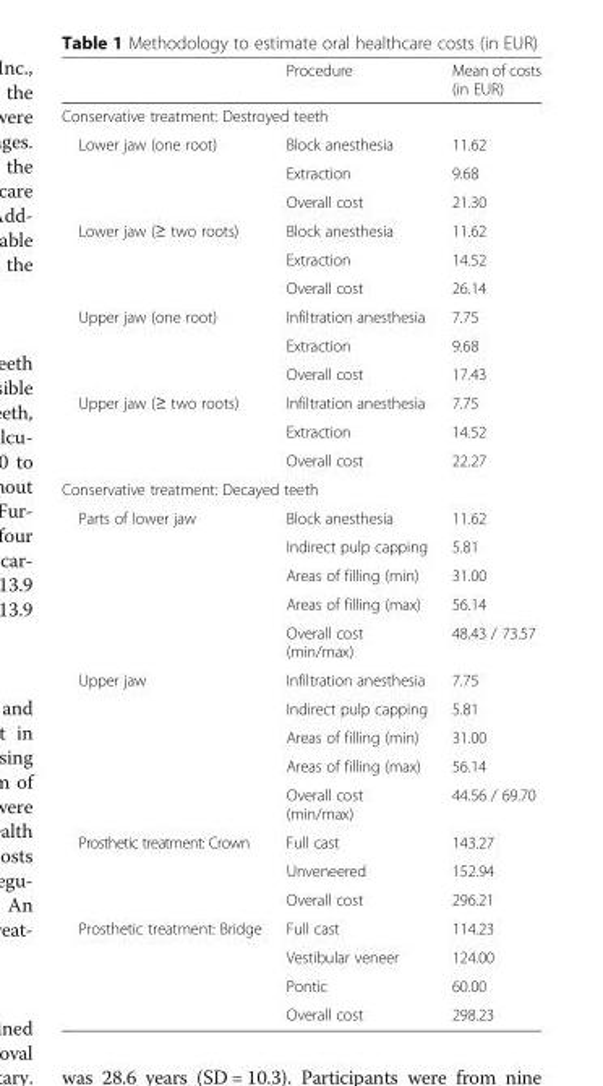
<table><thead><tr><td></td><td>Procedure</td><td>Mean of costs (in EUR)</td></tr></thead><tbody><tr><td colspan="3">Conservative treatment: Destroyed teeth</td></tr><tr><td rowspan="3">Lower jaw (one root)</td><td>Block anesthesia</td><td>11.62</td></tr><tr><td>Extraction</td><td>9.68</td></tr><tr><td>Overall cost</td><td>21.30</td></tr><tr><td rowspan="3">Lower jaw (≥ two roots)</td><td>Block anesthesia</td><td>11.62</td></tr><tr><td>Extraction</td><td>14.52</td></tr><tr><td>Overall cost</td><td>26.14</td></tr><tr><td rowspan="3">Upper jaw (one root)</td><td>Infiltration anesthesia</td><td>7.75</td></tr><tr><td>Extraction</td><td>9.68</td></tr><tr><td>Overall cost</td><td>17.43</td></tr><tr><td rowspan="3">Upper jaw (≥ two roots)</td><td>Infiltration anesthesia</td><td>7.75</td></tr><tr><td>Extraction</td><td>14.52</td></tr><tr><td>Overall cost</td><td>22.27</td></tr><tr><td colspan="3">Conservative treatment: Decayed teeth</td></tr><tr><td rowspan="5">Parts of lower jaw</td><td>Block anesthesia</td><td>11.62</td></tr><tr><td>Indirect pulp capping</td><td>5.81</td></tr><tr><td>Areas of filling (min)</td><td>31.00</td></tr><tr><td>Areas of filling (max)</td><td>56.14</td></tr><tr><td>Overall cost (min/max)</td><td>48.43 / 73.57</td></tr><tr><td rowspan="5">Upper jaw</td><td>Infiltration anesthesia</td><td>7.75</td></tr><tr><td>Indirect pulp capping</td><td>5.81</td></tr><tr><td>Areas of filling (min)</td><td>31.00</td></tr><tr><td>Areas of filling (max)</td><td>56.14</td></tr><tr><td>Overall cost (min/max)</td><td>44.56 / 69.70</td></tr><tr><td rowspan="3">Prosthetic treatment: Crown</td><td>Full cast</td><td>143.27</td></tr><tr><td>Unveneered</td><td>152.94</td></tr><tr><td>Overall cost</td><td>296.21</td></tr><tr><td rowspan="4">Prosthetic treatment: Bridge</td><td>Full cast</td><td>114.23</td></tr><tr><td>Vestibular veneer</td><td>124.00</td></tr><tr><td>Pontic</td><td>60.00</td></tr><tr><td>Overall cost</td><td>298.23</td></tr></tbody></table>